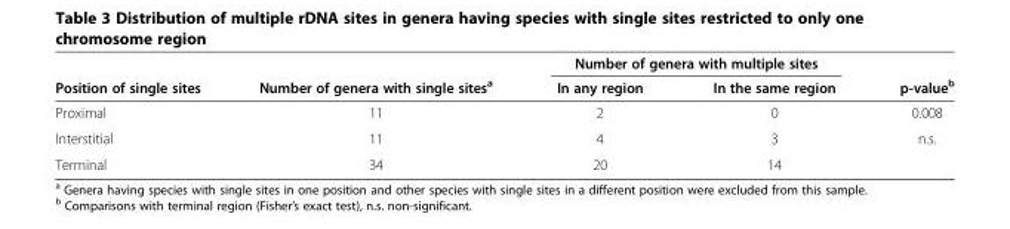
<table><thead><tr><td rowspan="2">Position of single sites</td><td rowspan="2">Number of genera with single sites<sup>a</sup></td><td colspan="2">Number of genera with multiple sites</td><td rowspan="2">p-value<sup>b</sup></td></tr><tr><td>In any region</td><td>In the same region</td></tr></thead><tbody><tr><td>Proximal</td><td>11</td><td>2</td><td>0</td><td>0.008</td></tr><tr><td>Interstitial</td><td>11</td><td>4</td><td>3</td><td>n.s.</td></tr><tr><td>Terminal</td><td>34</td><td>20</td><td>14</td><td></td></tr></tbody></table>